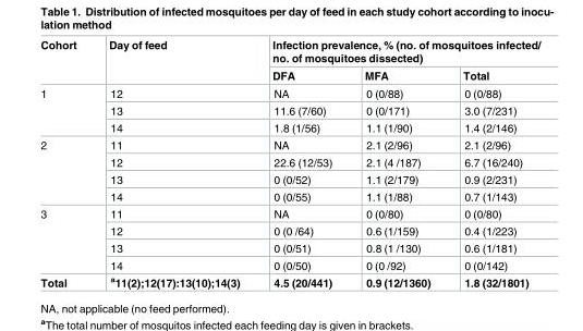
<table><thead><tr><td rowspan="2">Cohort</td><td rowspan="2">Day of feed</td><td colspan="3">Infection prevalence, % (no. of mosquitoes infected/ no. of mosquitoes dissected)</td></tr><tr><td>DFA</td><td>MFA</td><td>Total</td></tr></thead><tbody><tr><td rowspan="3">1</td><td>12</td><td>NA</td><td>0 (0/88)</td><td>0 (0/88)</td></tr><tr><td>13</td><td>11.6 (7/60)</td><td>0 (0/171)</td><td>3.0 (7/231)</td></tr><tr><td>14</td><td>1.8 (1/56)</td><td>1.1 (1/90)</td><td>1.4 (2/146)</td></tr><tr><td rowspan="4">2</td><td>11</td><td>NA</td><td>2.1 (2/96)</td><td>2.1 (2/96)</td></tr><tr><td>12</td><td>22.6 (12/53)</td><td>2.1 (4 /187)</td><td>6.7 (16/240)</td></tr><tr><td>13</td><td>0 (0/52)</td><td>1.1 (2/179)</td><td>0.9 (2/231)</td></tr><tr><td>14</td><td>0 (0/55)</td><td>1.1 (1/88)</td><td>0.7 (1/143)</td></tr><tr><td rowspan="4">3</td><td>11</td><td>NA</td><td>0 (0/80)</td><td>0 (0/80)</td></tr><tr><td>12</td><td>0 (0 /64)</td><td>0.6 (1/159)</td><td>0.4 (1/223)</td></tr><tr><td>13</td><td>0 (0/51)</td><td>0.8 (1 /130)</td><td>0.6 (1/181)</td></tr><tr><td>14</td><td>0 (0/50)</td><td>0 (0 /92)</td><td>0 (0/142)</td></tr><tr><td>Total</td><td><sup>a</sup>11(2);12(17):13(10);14(3)</td><td>4.5 (20/441)</td><td>0.9 (12/1360)</td><td>1.8 (32/1801)</td></tr></tbody></table>